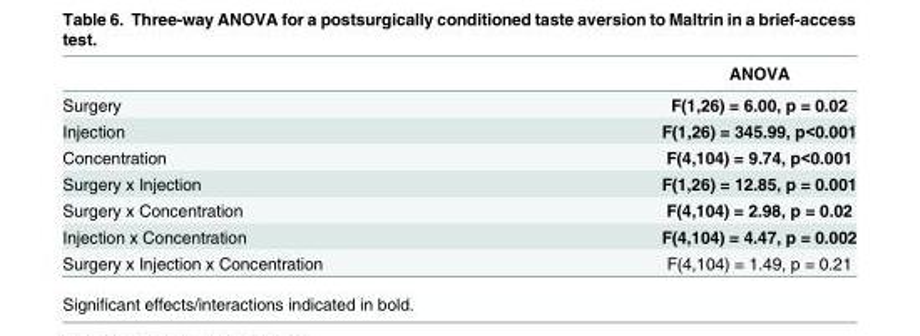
<table><thead><tr><td></td><td>ANOVA</td></tr></thead><tbody><tr><td>Surgery</td><td>F(1,26) = 6.00, p = 0.02</td></tr><tr><td>Injection</td><td>F(1,26) = 345.99, p&lt;0.001</td></tr><tr><td>Concentration</td><td>F(4,104) = 9.74, p&lt;0.001</td></tr><tr><td>Surgery x Injection</td><td>F(1,26) = 12.85, p = 0.001</td></tr><tr><td>Surgery x Concentration</td><td>F(4,104) = 2.98, p = 0.02</td></tr><tr><td>Injection x Concentration</td><td>F(4,104) = 4.47, p = 0.002</td></tr><tr><td>Surgery x Injection x Concentration</td><td>F(4,104) = 1.49, p = 0.21</td></tr></tbody></table>